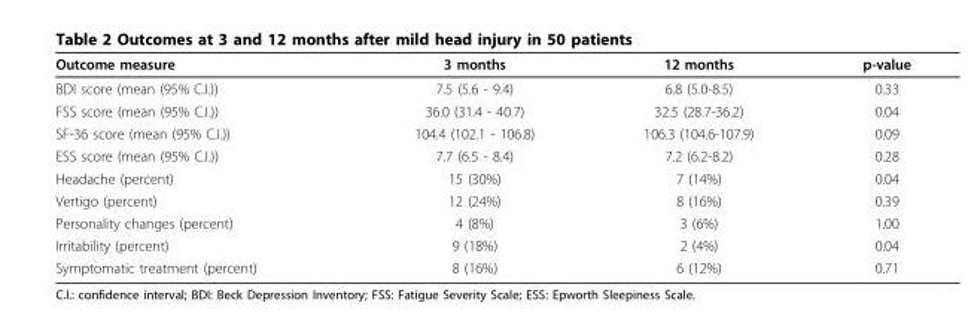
<table><thead><tr><td>Outcome measure</td><td>3 months</td><td>12 months</td><td>p-value</td></tr></thead><tbody><tr><td>BDI score (mean (95% C.I.))</td><td>7.5 (5.6 - 9.4)</td><td>6.8 (5.0-8.5)</td><td>0.33</td></tr><tr><td>FSS score (mean (95% C.I.))</td><td>36.0 (31.4 - 40.7)</td><td>32.5 (28.7-36.2)</td><td>0.04</td></tr><tr><td>SF-36 score (mean (95% C.I.))</td><td>104.4 (102.1 - 106.8)</td><td>106.3 (104.6-107.9)</td><td>0.09</td></tr><tr><td>ESS score (mean (95% C.I.))</td><td>7.7 (6.5 - 8.4)</td><td>7.2 (6.2-8.2)</td><td>0.28</td></tr><tr><td>Headache (percent)</td><td>15 (30%)</td><td>7 (14%)</td><td>0.04</td></tr><tr><td>Vertigo (percent)</td><td>12 (24%)</td><td>8 (16%)</td><td>0.39</td></tr><tr><td>Personality changes (percent)</td><td>4 (8%)</td><td>3 (6%)</td><td>1.00</td></tr><tr><td>Irritability (percent)</td><td>9 (18%)</td><td>2 (4%)</td><td>0.04</td></tr><tr><td>Symptomatic treatment (percent)</td><td>8 (16%)</td><td>6 (12%)</td><td>0.71</td></tr></tbody></table>